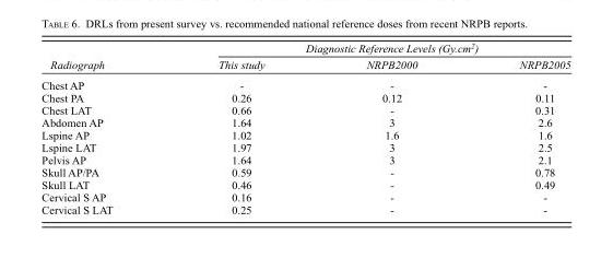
<table><thead><tr><td rowspan="2">Radiograph</td><td colspan="3">Diagnostic Reference Levels (Gy.cm<sup>2</sup>)</td></tr><tr><td>This study</td><td>NRPB2000</td><td>NRPB2005</td></tr></thead><tbody><tr><td>Chest AP</td><td>-</td><td>-</td><td>-</td></tr><tr><td>Chest PA</td><td>0.26</td><td>0.12</td><td>0.11</td></tr><tr><td>Chest LAT</td><td>0.66</td><td>-</td><td>0.31</td></tr><tr><td>Abdomen AP</td><td>1.64</td><td>3</td><td>2.6</td></tr><tr><td>Lspine AP</td><td>1.02</td><td>1.6</td><td>1.6</td></tr><tr><td>Lspine LAT</td><td>1.97</td><td>3</td><td>2.5</td></tr><tr><td>Pelvis AP</td><td>1.64</td><td>3</td><td>2.1</td></tr><tr><td>Skull AP/PA</td><td>0.59</td><td>-</td><td>0.78</td></tr><tr><td>Skull LAT</td><td>0.46</td><td>-</td><td>0.49</td></tr><tr><td>Cervical S AP</td><td>0.16</td><td>-</td><td>-</td></tr><tr><td>Cervical S LAT</td><td>0.25</td><td>-</td><td>-</td></tr></tbody></table>